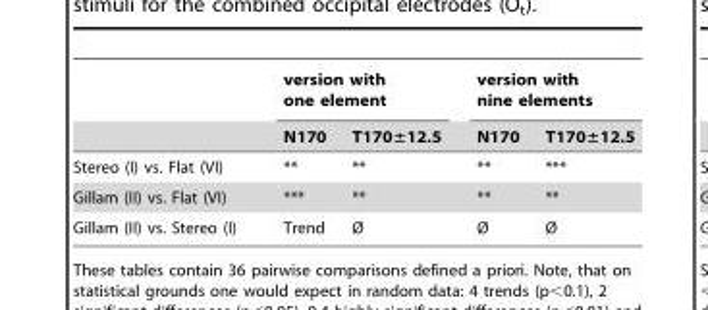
<table><thead><tr><td rowspan="2"></td><td colspan="2">version with one element</td><td colspan="2">version with nine elements</td></tr><tr><td>N170</td><td>T170±12.5</td><td>N170</td><td>T170±12.5</td></tr></thead><tbody><tr><td>Stereo (I) vs. Flat (VI)</td><td>**</td><td>**</td><td>**</td><td>***</td></tr><tr><td>Gillam (II) vs. Flat (VI)</td><td>***</td><td>**</td><td>**</td><td>**</td></tr><tr><td>Gillam (II) vs. Stereo (I)</td><td>Trend</td><td>Ø</td><td>Ø</td><td>Ø</td></tr></tbody></table>